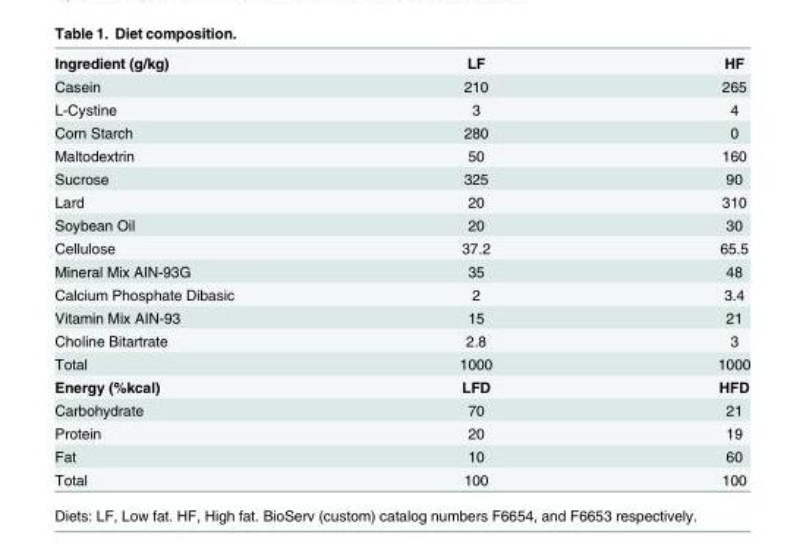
<table><tbody><tr><td>Ingredient (g/kg)</td><td>LF</td><td>HF</td></tr><tr><td>Casein</td><td>210</td><td>265</td></tr><tr><td>L-Cystine</td><td>3</td><td>4</td></tr><tr><td>Corn Starch</td><td>280</td><td>0</td></tr><tr><td>Maltodextrin</td><td>50</td><td>160</td></tr><tr><td>Sucrose</td><td>325</td><td>90</td></tr><tr><td>Lard</td><td>20</td><td>310</td></tr><tr><td>Soybean Oil</td><td>20</td><td>30</td></tr><tr><td>Cellulose</td><td>37.2</td><td>65.5</td></tr><tr><td>Mineral Mix AIN-93G</td><td>35</td><td>48</td></tr><tr><td>Calcium Phosphate Dibasic</td><td>2</td><td>3.4</td></tr><tr><td>Vitamin Mix AIN-93</td><td>15</td><td>21</td></tr><tr><td>Choline Bitartrate</td><td>2.8</td><td>3</td></tr><tr><td>Total</td><td>1000</td><td>1000</td></tr><tr><td>Energy (%kcal)</td><td>LFD</td><td>HFD</td></tr><tr><td>Carbohydrate</td><td>70</td><td>21</td></tr><tr><td>Protein</td><td>20</td><td>19</td></tr><tr><td>Fat</td><td>10</td><td>60</td></tr><tr><td>Total</td><td>100</td><td>100</td></tr></tbody></table>